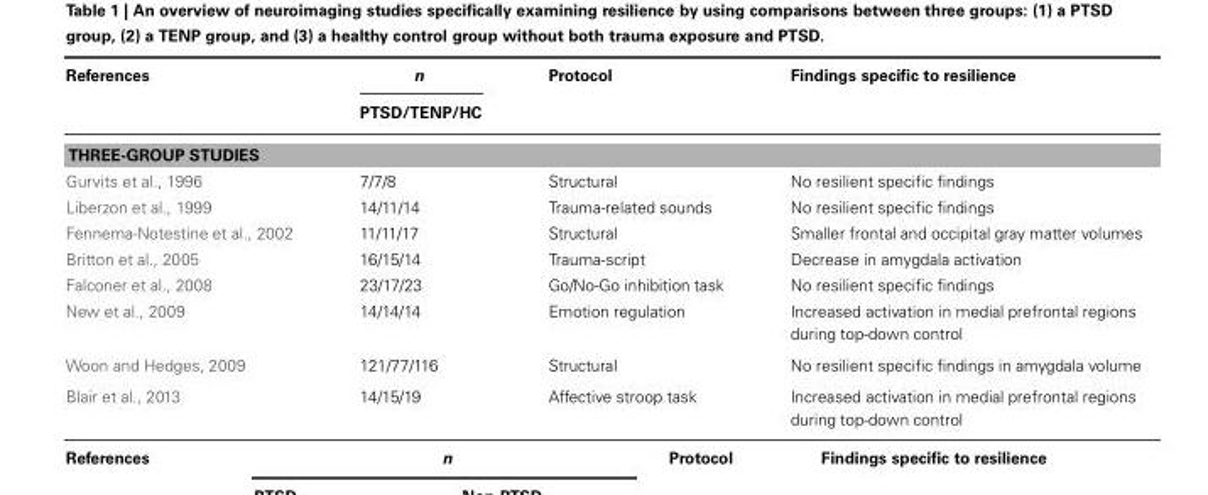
<table><thead><tr><td rowspan="2">References</td><td rowspan="2">n PTSD/TENP/HC</td><td rowspan="2">Protocol</td><td rowspan="2">Findings specific to resilience</td></tr><tr></tr></thead><tbody><tr><td colspan="4">THREE-GROUP STUDIES</td></tr><tr><td>Gurvits et al., 1996</td><td>7/7/8</td><td>Structural</td><td>No resilient specific findings</td></tr><tr><td>Liberzon et al., 1999</td><td>14/11/14</td><td>Trauma-related sounds</td><td>No resilient specific findings</td></tr><tr><td>Fennema-Notestine et al., 2002</td><td>11/11/17</td><td>Structural</td><td>Smaller frontal and occipital gray matter volumes</td></tr><tr><td>Britton et al., 2005</td><td>16/15/14</td><td>Trauma-script</td><td>Decrease in amygdala activation</td></tr><tr><td>Falconer et al., 2008</td><td>23/17/23</td><td>Go/No-Go inhibition task</td><td>No resilient specific findings</td></tr><tr><td>New et al., 2009</td><td>14/14/14</td><td>Emotion regulation</td><td>Increased activation in medial prefrontal regions during top-down control</td></tr><tr><td>Woon and Hedges, 2009</td><td>121/77/116</td><td>Structural</td><td>No resilient specific findings in amygdala volume</td></tr><tr><td>Blair et al., 2013</td><td>14/15/19</td><td>Affective stroop task</td><td>Increased activation in medial prefrontal regions during top-down control</td></tr></tbody></table>